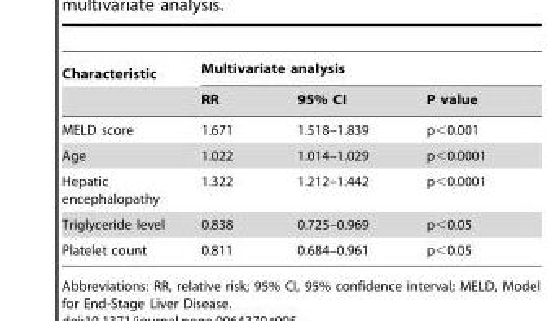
<table><thead><tr><td rowspan="2">Characteristic</td><td colspan="3">Multivariate analysis</td></tr><tr><td>RR</td><td>95% CI</td><td>P value</td></tr></thead><tbody><tr><td>MELD score</td><td>1.671</td><td>1.518–1.839</td><td>p&lt;0.001</td></tr><tr><td>Age</td><td>1.022</td><td>1.014–1.029</td><td>p&lt;0.0001</td></tr><tr><td>Hepatic encephalopathy</td><td>1.322</td><td>1.212–1.442</td><td>p&lt;0.0001</td></tr><tr><td>Triglyceride level</td><td>0.838</td><td>0.725–0.969</td><td>p&lt;0.05</td></tr><tr><td>Platelet count</td><td>0.811</td><td>0.684–0.961</td><td>p&lt;0.05</td></tr></tbody></table>